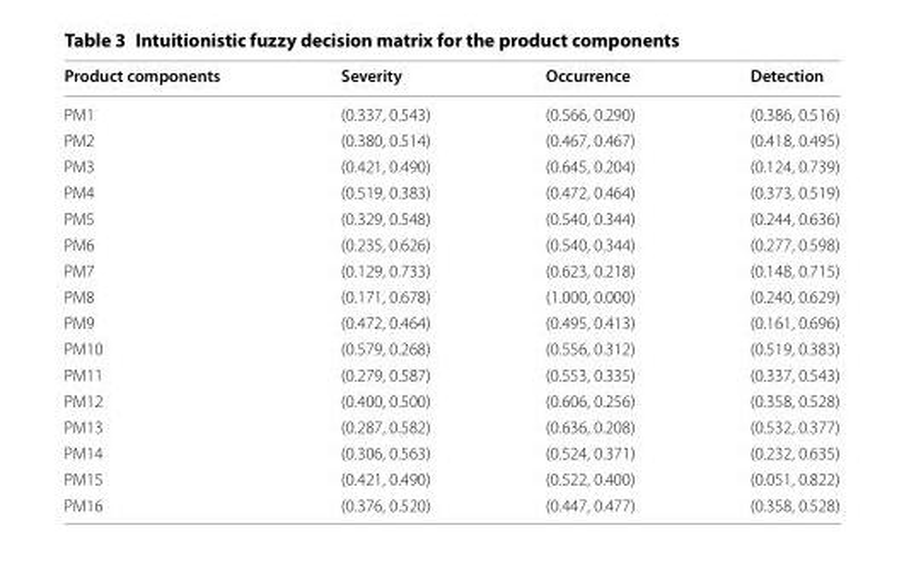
<table><thead><tr><td>Product components</td><td>Severity</td><td>Occurrence</td><td>Detection</td></tr></thead><tbody><tr><td>PM1</td><td>(0.337, 0.543)</td><td>(0.566, 0.290)</td><td>(0.386, 0.516)</td></tr><tr><td>PM2</td><td>(0.380, 0.514)</td><td>(0.467, 0.467)</td><td>(0.418, 0.495)</td></tr><tr><td>PM3</td><td>(0.421, 0.490)</td><td>(0.645, 0.204)</td><td>(0.124, 0.739)</td></tr><tr><td>PM4</td><td>(0.519, 0.383)</td><td>(0.472, 0.464)</td><td>(0.373, 0.519)</td></tr><tr><td>PM5</td><td>(0.329, 0.548)</td><td>(0.540, 0.344)</td><td>(0.244, 0.636)</td></tr><tr><td>PM6</td><td>(0.235, 0.626)</td><td>(0.540, 0.344)</td><td>(0.277, 0.598)</td></tr><tr><td>PM7</td><td>(0.129, 0.733)</td><td>(0.623, 0.218)</td><td>(0.148, 0.715)</td></tr><tr><td>PM8</td><td>(0.171, 0.678)</td><td>(1.000, 0.000)</td><td>(0.240, 0.629)</td></tr><tr><td>PM9</td><td>(0.472, 0.464)</td><td>(0.495, 0.413)</td><td>(0.161, 0.696)</td></tr><tr><td>PM10</td><td>(0.579, 0.268)</td><td>(0.556, 0.312)</td><td>(0.519, 0.383)</td></tr><tr><td>PM11</td><td>(0.279, 0.587)</td><td>(0.553, 0.335)</td><td>(0.337, 0.543)</td></tr><tr><td>PM12</td><td>(0.400, 0.500)</td><td>(0.606, 0.256)</td><td>(0.358, 0.528)</td></tr><tr><td>PM13</td><td>(0.287, 0.582)</td><td>(0.636, 0.208)</td><td>(0.532, 0.377)</td></tr><tr><td>PM14</td><td>(0.306, 0.563)</td><td>(0.524, 0.371)</td><td>(0.232, 0.635)</td></tr><tr><td>PM15</td><td>(0.421, 0.490)</td><td>(0.522, 0.400)</td><td>(0.051, 0.822)</td></tr><tr><td>PM16</td><td>(0.376, 0.520)</td><td>(0.447, 0.477)</td><td>(0.358, 0.528)</td></tr></tbody></table>